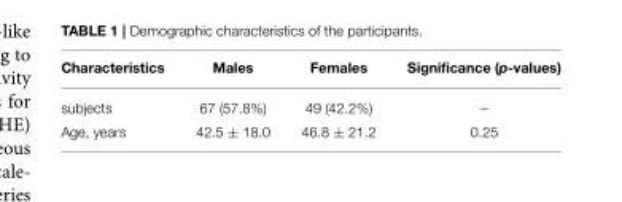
<table><thead><tr><td>Characteristics</td><td>Males</td><td>Females</td><td>Significance (p-values)</td></tr></thead><tbody><tr><td>subjects</td><td>67 (57.8%)</td><td>49 (42.2%)</td><td>–</td></tr><tr><td>Age, years</td><td>42.5 ± 18.0</td><td>46.8 ± 21.2</td><td>0.25</td></tr></tbody></table>